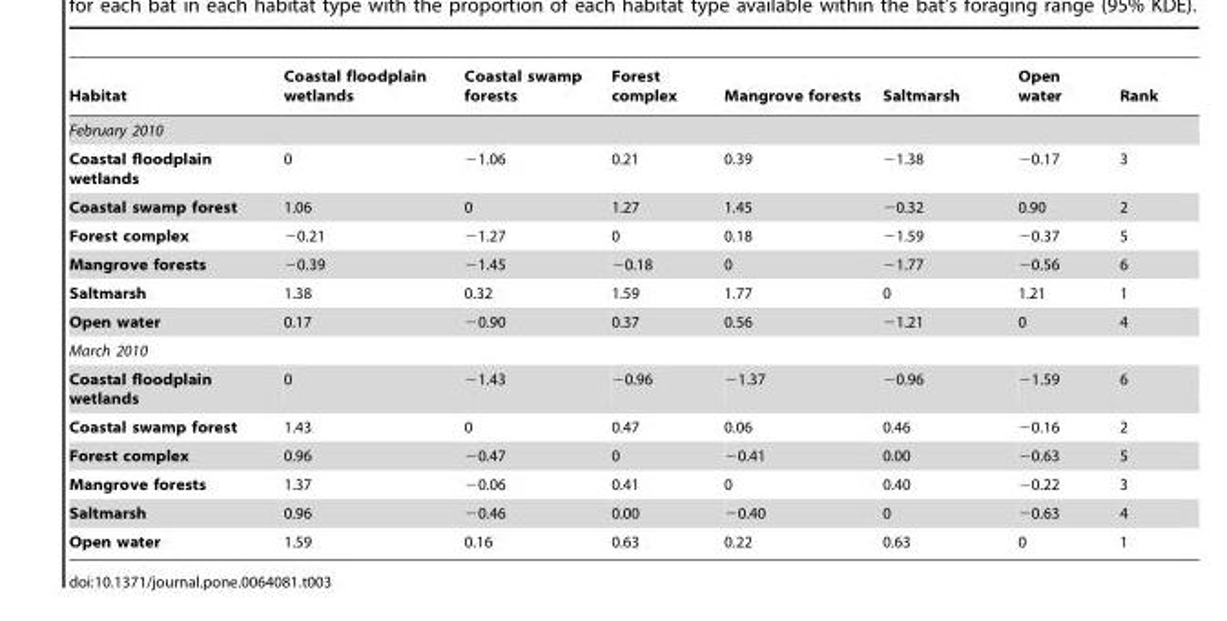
<table><thead><tr><td>Habitat</td><td>Coastal floodplain wetlands</td><td>Coastal swamp forests</td><td>Forest complex</td><td>Mangrove forests</td><td>Saltmarsh</td><td>Open water</td><td>Rank</td></tr></thead><tbody><tr><td colspan="8">February 2010</td></tr><tr><td>Coastal floodplain wetlands</td><td>0</td><td>−1.06</td><td>0.21</td><td>0.39</td><td>−1.38</td><td>−0.17</td><td>3</td></tr><tr><td>Coastal swamp forest</td><td>1.06</td><td>0</td><td>1.27</td><td>1.45</td><td>−0.32</td><td>0.90</td><td>2</td></tr><tr><td>Forest complex</td><td>−0.21</td><td>−1.27</td><td>0</td><td>0.18</td><td>−1.59</td><td>−0.37</td><td>5</td></tr><tr><td>Mangrove forests</td><td>−0.39</td><td>−1.45</td><td>−0.18</td><td>0</td><td>−1.77</td><td>−0.56</td><td>6</td></tr><tr><td>Saltmarsh</td><td>1.38</td><td>0.32</td><td>1.59</td><td>1.77</td><td>0</td><td>1.21</td><td>1</td></tr><tr><td>Open water</td><td>0.17</td><td>−0.90</td><td>0.37</td><td>0.56</td><td>−1.21</td><td>0</td><td>4</td></tr><tr><td colspan="8">March 2010</td></tr><tr><td>Coastal floodplain wetlands</td><td>0</td><td>−1.43</td><td>−0.96</td><td>−1.37</td><td>−0.96</td><td>−1.59</td><td>6</td></tr><tr><td>Coastal swamp forest</td><td>1.43</td><td>0</td><td>0.47</td><td>0.06</td><td>0.46</td><td>−0.16</td><td>2</td></tr><tr><td>Forest complex</td><td>0.96</td><td>−0.47</td><td>0</td><td>−0.41</td><td>0.00</td><td>−0.63</td><td>5</td></tr><tr><td>Mangrove forests</td><td>1.37</td><td>−0.06</td><td>0.41</td><td>0</td><td>0.40</td><td>−0.22</td><td>3</td></tr><tr><td>Saltmarsh</td><td>0.96</td><td>−0.46</td><td>0.00</td><td>−0.40</td><td>0</td><td>−0.63</td><td>4</td></tr><tr><td>Open water</td><td>1.59</td><td>0.16</td><td>0.63</td><td>0.22</td><td>0.63</td><td>0</td><td>1</td></tr></tbody></table>